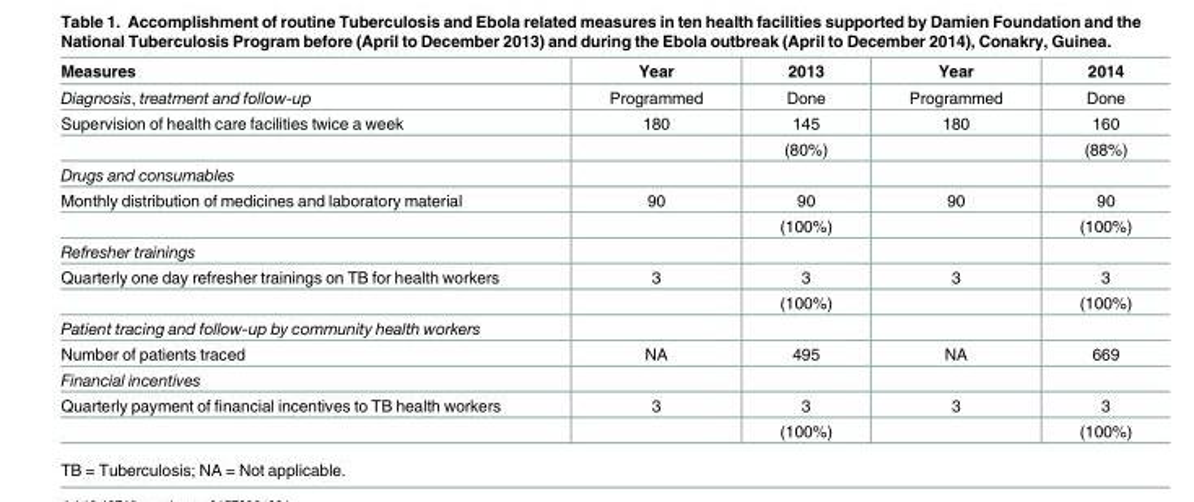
<table><thead><tr><td>Measures</td><td>Year</td><td>2013</td><td>Year</td><td>2014</td></tr></thead><tbody><tr><td>Diagnosis, treatment and follow-up</td><td>Programmed</td><td>Done</td><td>Programmed</td><td>Done</td></tr><tr><td rowspan="2">Supervision of health care facilities twice a week</td><td>180</td><td>145</td><td>180</td><td>160</td></tr><tr><td></td><td>(80%)</td><td></td><td>(88%)</td></tr><tr><td colspan="5">Drugs and consumables</td></tr><tr><td rowspan="2">Monthly distribution of medicines and laboratory material</td><td>90</td><td>90</td><td>90</td><td>90</td></tr><tr><td></td><td>(100%)</td><td></td><td>(100%)</td></tr><tr><td colspan="5">Refresher trainings</td></tr><tr><td rowspan="2">Quarterly one day refresher trainings on TB for health workers</td><td>3</td><td>3</td><td>3</td><td>3</td></tr><tr><td></td><td>(100%)</td><td></td><td>(100%)</td></tr><tr><td colspan="5">Patient tracing and follow-up by community health workers</td></tr><tr><td>Number of patients traced</td><td>NA</td><td>495</td><td>NA</td><td>669</td></tr><tr><td colspan="5">Financial incentives</td></tr><tr><td rowspan="2">Quarterly payment of financial incentives to TB health workers</td><td>3</td><td>3</td><td>3</td><td>3</td></tr><tr><td></td><td>(100%)</td><td></td><td>(100%)</td></tr></tbody></table>